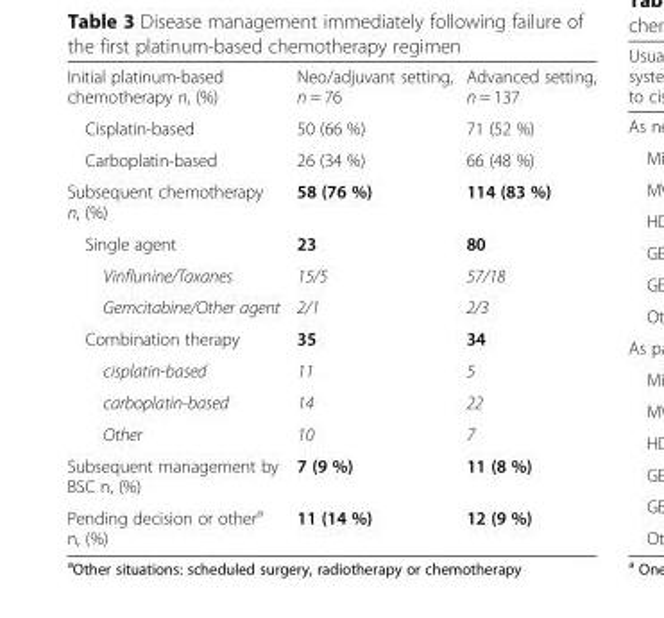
<table><tbody><tr><td>Initial platinum-based chemotherapy n, (%)</td><td>Neo/adjuvant setting, n = 76</td><td>Advanced setting, n = 137</td></tr><tr><td>Cisplatin-based</td><td>50 (66 %)</td><td>71 (52 %)</td></tr><tr><td>Carboplatin-based</td><td>26 (34 %)</td><td>66 (48 %)</td></tr><tr><td>Subsequent chemotherapy n, (%)</td><td>58 (76 %)</td><td>114 (83 %)</td></tr><tr><td>Single agent</td><td>23</td><td>80</td></tr><tr><td>Vinflunine/Taxanes</td><td>15/5</td><td>57/18</td></tr><tr><td>Gemcitabine/Other agent</td><td>2/1</td><td>2/3</td></tr><tr><td>Combination therapy</td><td>35</td><td>34</td></tr><tr><td>cisplatin-based</td><td>11</td><td>5</td></tr><tr><td>carboplatin-based</td><td>14</td><td>22</td></tr><tr><td>Other</td><td>10</td><td>7</td></tr><tr><td>Subsequent management by BSC n, (%)</td><td>7 (9 %)</td><td>11 (8 %)</td></tr><tr><td>Pending decision or other<sup>a</sup> n, (%)</td><td>11 (14 %)</td><td>12 (9 %)</td></tr></tbody></table>